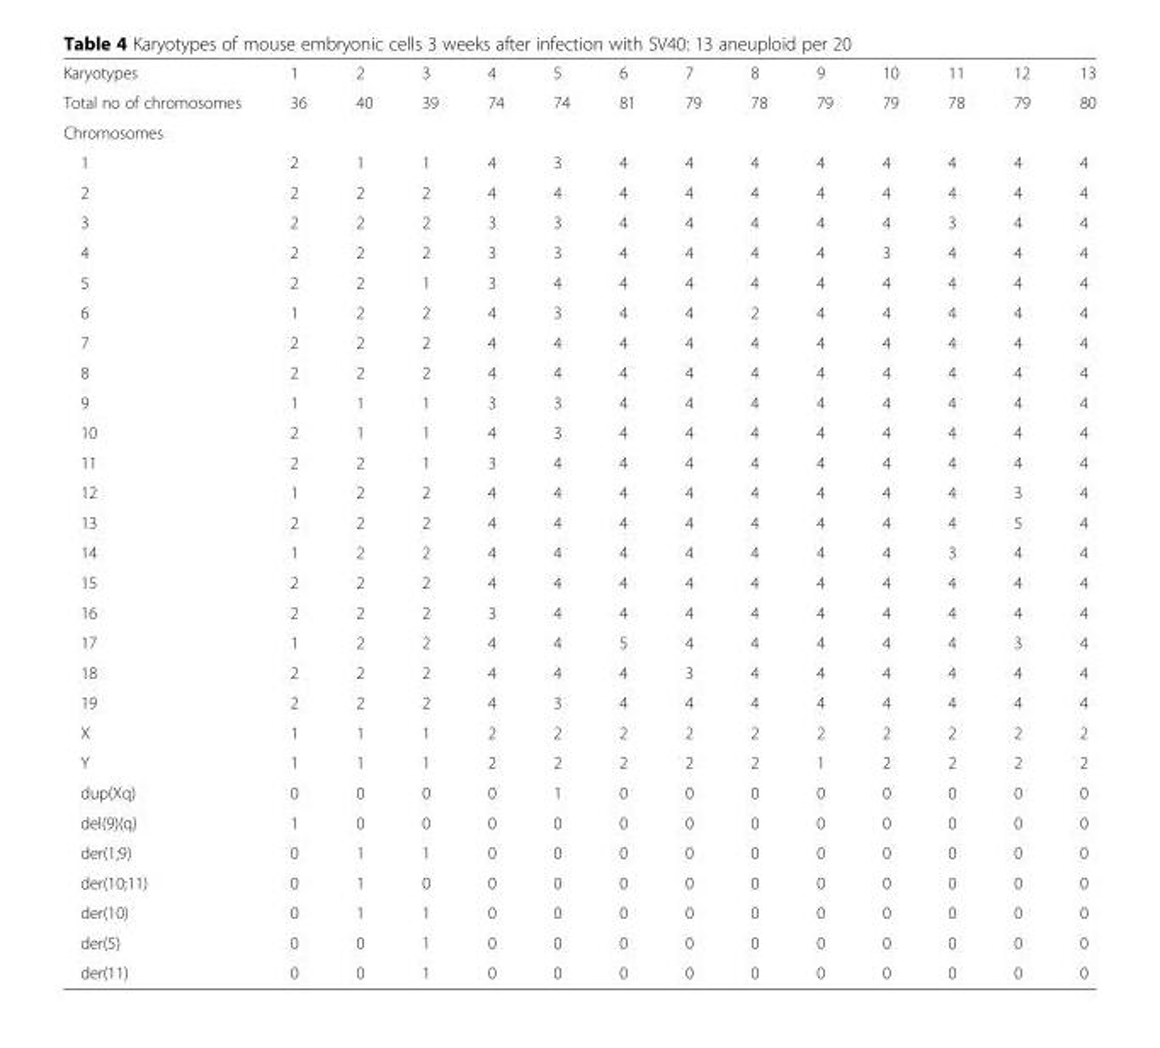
<table><tbody><tr><td>Karyotypes</td><td>1</td><td>2</td><td>3</td><td>4</td><td>5</td><td>6</td><td>7</td><td>8</td><td>9</td><td>10</td><td>11</td><td>12</td><td>13</td></tr><tr><td>Total no of chromosomes</td><td>36</td><td>40</td><td>39</td><td>74</td><td>74</td><td>81</td><td>79</td><td>78</td><td>79</td><td>79</td><td>78</td><td>79</td><td>80</td></tr><tr><td colspan="14">Chromosomes</td></tr><tr><td>1</td><td>2</td><td>1</td><td>1</td><td>4</td><td>3</td><td>4</td><td>4</td><td>4</td><td>4</td><td>4</td><td>4</td><td>4</td><td>4</td></tr><tr><td>2</td><td>2</td><td>2</td><td>2</td><td>4</td><td>4</td><td>4</td><td>4</td><td>4</td><td>4</td><td>4</td><td>4</td><td>4</td><td>4</td></tr><tr><td>3</td><td>2</td><td>2</td><td>2</td><td>3</td><td>3</td><td>4</td><td>4</td><td>4</td><td>4</td><td>4</td><td>3</td><td>4</td><td>4</td></tr><tr><td>4</td><td>2</td><td>2</td><td>2</td><td>3</td><td>3</td><td>4</td><td>4</td><td>4</td><td>4</td><td>3</td><td>4</td><td>4</td><td>4</td></tr><tr><td>5</td><td>2</td><td>2</td><td>1</td><td>3</td><td>4</td><td>4</td><td>4</td><td>4</td><td>4</td><td>4</td><td>4</td><td>4</td><td>4</td></tr><tr><td>6</td><td>1</td><td>2</td><td>2</td><td>4</td><td>3</td><td>4</td><td>4</td><td>2</td><td>4</td><td>4</td><td>4</td><td>4</td><td>4</td></tr><tr><td>7</td><td>2</td><td>2</td><td>2</td><td>4</td><td>4</td><td>4</td><td>4</td><td>4</td><td>4</td><td>4</td><td>4</td><td>4</td><td>4</td></tr><tr><td>8</td><td>2</td><td>2</td><td>2</td><td>4</td><td>4</td><td>4</td><td>4</td><td>4</td><td>4</td><td>4</td><td>4</td><td>4</td><td>4</td></tr><tr><td>9</td><td>1</td><td>1</td><td>1</td><td>3</td><td>3</td><td>4</td><td>4</td><td>4</td><td>4</td><td>4</td><td>4</td><td>4</td><td>4</td></tr><tr><td>10</td><td>2</td><td>1</td><td>1</td><td>4</td><td>3</td><td>4</td><td>4</td><td>4</td><td>4</td><td>4</td><td>4</td><td>4</td><td>4</td></tr><tr><td>11</td><td>2</td><td>2</td><td>1</td><td>3</td><td>4</td><td>4</td><td>4</td><td>4</td><td>4</td><td>4</td><td>4</td><td>4</td><td>4</td></tr><tr><td>12</td><td>1</td><td>2</td><td>2</td><td>4</td><td>4</td><td>4</td><td>4</td><td>4</td><td>4</td><td>4</td><td>4</td><td>3</td><td>4</td></tr><tr><td>13</td><td>2</td><td>2</td><td>2</td><td>4</td><td>4</td><td>4</td><td>4</td><td>4</td><td>4</td><td>4</td><td>4</td><td>5</td><td>4</td></tr><tr><td>14</td><td>1</td><td>2</td><td>2</td><td>4</td><td>4</td><td>4</td><td>4</td><td>4</td><td>4</td><td>4</td><td>3</td><td>4</td><td>4</td></tr><tr><td>15</td><td>2</td><td>2</td><td>2</td><td>4</td><td>4</td><td>4</td><td>4</td><td>4</td><td>4</td><td>4</td><td>4</td><td>4</td><td>4</td></tr><tr><td>16</td><td>2</td><td>2</td><td>2</td><td>3</td><td>4</td><td>4</td><td>4</td><td>4</td><td>4</td><td>4</td><td>4</td><td>4</td><td>4</td></tr><tr><td>17</td><td>1</td><td>2</td><td>2</td><td>4</td><td>4</td><td>5</td><td>4</td><td>4</td><td>4</td><td>4</td><td>4</td><td>3</td><td>4</td></tr><tr><td>18</td><td>2</td><td>2</td><td>2</td><td>4</td><td>4</td><td>4</td><td>3</td><td>4</td><td>4</td><td>4</td><td>4</td><td>4</td><td>4</td></tr><tr><td>19</td><td>2</td><td>2</td><td>2</td><td>4</td><td>3</td><td>4</td><td>4</td><td>4</td><td>4</td><td>4</td><td>4</td><td>4</td><td>4</td></tr><tr><td>X</td><td>1</td><td>1</td><td>1</td><td>2</td><td>2</td><td>2</td><td>2</td><td>2</td><td>2</td><td>2</td><td>2</td><td>2</td><td>2</td></tr><tr><td>Y</td><td>1</td><td>1</td><td>1</td><td>2</td><td>2</td><td>2</td><td>2</td><td>2</td><td>1</td><td>2</td><td>2</td><td>2</td><td>2</td></tr><tr><td>dup(Xq)</td><td>0</td><td>0</td><td>0</td><td>0</td><td>1</td><td>0</td><td>0</td><td>0</td><td>0</td><td>0</td><td>0</td><td>0</td><td>0</td></tr><tr><td>del(9)(q)</td><td>1</td><td>0</td><td>0</td><td>0</td><td>0</td><td>0</td><td>0</td><td>0</td><td>0</td><td>0</td><td>0</td><td>0</td><td>0</td></tr><tr><td>der(1;9)</td><td>0</td><td>1</td><td>1</td><td>0</td><td>0</td><td>0</td><td>0</td><td>0</td><td>0</td><td>0</td><td>0</td><td>0</td><td>0</td></tr><tr><td>der(10;11)</td><td>0</td><td>1</td><td>0</td><td>0</td><td>0</td><td>0</td><td>0</td><td>0</td><td>0</td><td>0</td><td>0</td><td>0</td><td>0</td></tr><tr><td>der(10)</td><td>0</td><td>1</td><td>1</td><td>0</td><td>0</td><td>0</td><td>0</td><td>0</td><td>0</td><td>0</td><td>0</td><td>0</td><td>0</td></tr><tr><td>der(5)</td><td>0</td><td>0</td><td>1</td><td>0</td><td>0</td><td>0</td><td>0</td><td>0</td><td>0</td><td>0</td><td>0</td><td>0</td><td>0</td></tr><tr><td>der(11)</td><td>0</td><td>0</td><td>1</td><td>0</td><td>0</td><td>0</td><td>0</td><td>0</td><td>0</td><td>0</td><td>0</td><td>0</td><td>0</td></tr></tbody></table>